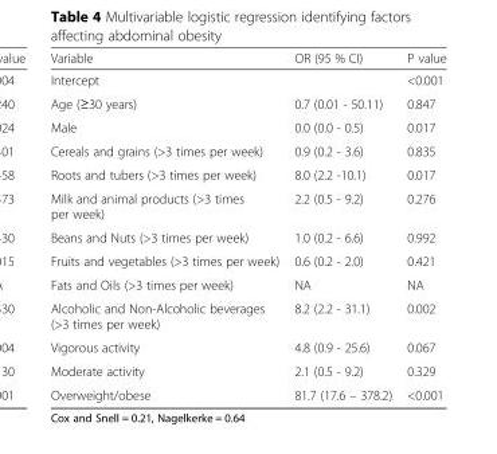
<table><thead><tr><td>Variable</td><td>OR (95 % CI)</td><td>P value</td></tr></thead><tbody><tr><td>Intercept</td><td></td><td>&lt;0.001</td></tr><tr><td>Age (≥30 years)</td><td>0.7 (0.01 - 50.11)</td><td>0.847</td></tr><tr><td>Male</td><td>0.0 (0.0 - 0.5)</td><td>0.017</td></tr><tr><td>Cereals and grains (&gt;3 times per week)</td><td>0.9 (0.2 - 3.6)</td><td>0.835</td></tr><tr><td>Roots and tubers (&gt;3 times per week)</td><td>8.0 (2.2 -10.1)</td><td>0.017</td></tr><tr><td>Milk and animal products (&gt;3 times per week)</td><td>2.2 (0.5 - 9.2)</td><td>0.276</td></tr><tr><td>Beans and Nuts (&gt;3 times per week)</td><td>1.0 (0.2 - 6.6)</td><td>0.992</td></tr><tr><td>Fruits and vegetables (&gt;3 times per week)</td><td>0.6 (0.2 - 2.0)</td><td>0.421</td></tr><tr><td>Fats and Oils (&gt;3 times per week)</td><td>NA</td><td>NA</td></tr><tr><td>Alcoholic and Non-Alcoholic beverages (&gt;3 times per week)</td><td>8.2 (2.2 - 31.1)</td><td>0.002</td></tr><tr><td>Vigorous activity</td><td>4.8 (0.9 - 25.6)</td><td>0.067</td></tr><tr><td>Moderate activity</td><td>2.1 (0.5 - 9.2)</td><td>0.329</td></tr><tr><td>Overweight/obese</td><td>81.7 (17.6 – 378.2)</td><td>&lt;0.001</td></tr></tbody></table>